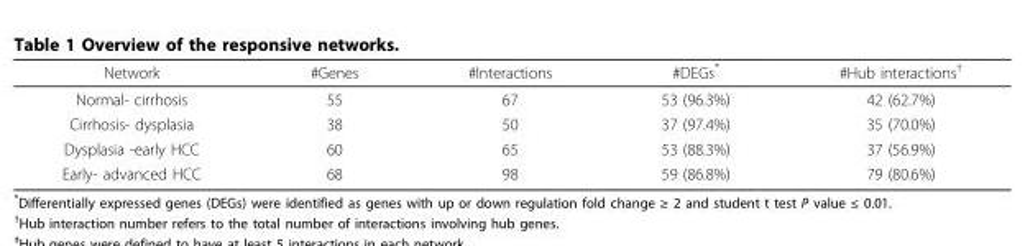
<table><thead><tr><td>Network</td><td>#Genes</td><td>#Interactions</td><td>#DEGs*</td><td>#Hub interactions<sup>†</sup></td></tr></thead><tbody><tr><td>Normal- cirrhosis</td><td>55</td><td>67</td><td>53 (96.3%)</td><td>42 (62.7%)</td></tr><tr><td>Cirrhosis- dysplasia</td><td>38</td><td>50</td><td>37 (97.4%)</td><td>35 (70.0%)</td></tr><tr><td>Dysplasia -early HCC</td><td>60</td><td>65</td><td>53 (88.3%)</td><td>37 (56.9%)</td></tr><tr><td>Early- advanced HCC</td><td>68</td><td>98</td><td>59 (86.8%)</td><td>79 (80.6%)</td></tr></tbody></table>